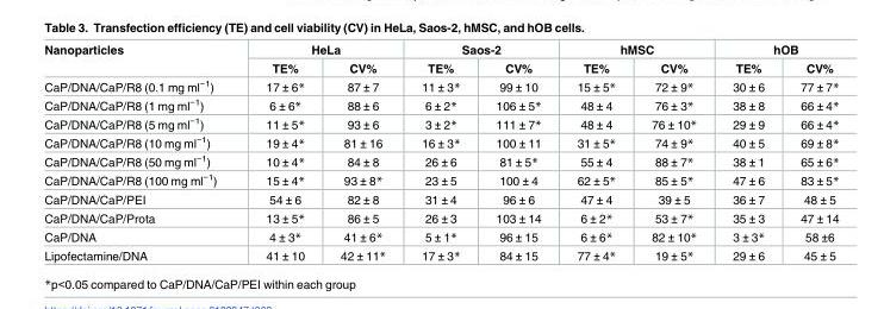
<table><thead><tr><td rowspan="2">Nanoparticles</td><td colspan="2">HeLa</td><td colspan="2">Saos-2</td><td colspan="2">hMSC</td><td colspan="2">hOB</td></tr><tr><td>TE%</td><td>CV%</td><td>TE%</td><td>CV%</td><td>TE%</td><td>CV%</td><td>TE%</td><td>CV%</td></tr></thead><tbody><tr><td>CaP/DNA/CaP/R8 (0.1 mg ml<sup>−1</sup>)</td><td>17 ± 6*</td><td>87 ± 7</td><td>11 ± 3*</td><td>99 ± 10</td><td>15 ± 5*</td><td>72 ± 9*</td><td>30 ± 6</td><td>77 ± 7*</td></tr><tr><td>CaP/DNA/CaP/R8 (1 mg ml<sup>−1</sup>)</td><td>6 ± 6*</td><td>88 ± 6</td><td>6 ± 2*</td><td>106 ± 5*</td><td>48 ± 4</td><td>76 ± 3*</td><td>38 ± 8</td><td>66 ± 4*</td></tr><tr><td>CaP/DNA/CaP/R8 (5 mg ml<sup>−1</sup>)</td><td>11 ± 5*</td><td>93 ± 6</td><td>3 ± 2*</td><td>111 ± 7*</td><td>48 ± 4</td><td>76 ± 10*</td><td>29 ± 9</td><td>66 ± 4*</td></tr><tr><td>CaP/DNA/CaP/R8 (10 mg ml<sup>−1</sup>)</td><td>19 ± 4*</td><td>81 ± 16</td><td>16 ± 3*</td><td>100 ± 11</td><td>31 ± 5*</td><td>74 ± 9*</td><td>40 ± 5</td><td>69 ± 8*</td></tr><tr><td>CaP/DNA/CaP/R8 (50 mg ml<sup>−1</sup>)</td><td>10 ± 4*</td><td>84 ± 8</td><td>26 ± 6</td><td>81 ± 5*</td><td>55 ± 4</td><td>88 ± 7*</td><td>38 ± 1</td><td>65 ± 6*</td></tr><tr><td>CaP/DNA/CaP/R8 (100 mg ml<sup>−1</sup>)</td><td>15 ± 4*</td><td>93 ± 8*</td><td>23 ± 5</td><td>100 ± 4</td><td>62 ± 5*</td><td>85 ± 5*</td><td>47 ± 6</td><td>83 ± 5*</td></tr><tr><td>CaP/DNA/CaP/PEI</td><td>54 ± 6</td><td>82 ± 8</td><td>31 ± 4</td><td>96 ± 6</td><td>47 ± 4</td><td>39 ± 5</td><td>36 ± 7</td><td>48 ± 5</td></tr><tr><td>CaP/DNA/CaP/Prota</td><td>13 ± 5*</td><td>86 ± 5</td><td>26 ± 3</td><td>103 ± 14</td><td>6 ± 2*</td><td>53 ± 7*</td><td>35 ± 3</td><td>47 ± 14</td></tr><tr><td>CaP/DNA</td><td>4 ± 3*</td><td>41 ± 6*</td><td>5 ± 1*</td><td>96 ± 15</td><td>6 ± 6*</td><td>82 ± 10*</td><td>3 ± 3*</td><td>58 ±6</td></tr><tr><td>Lipofectamine/DNA</td><td>41 ± 10</td><td>42 ± 11*</td><td>17 ± 3*</td><td>84 ± 15</td><td>77 ± 4*</td><td>19 ± 5*</td><td>29 ± 6</td><td>45 ± 5</td></tr></tbody></table>